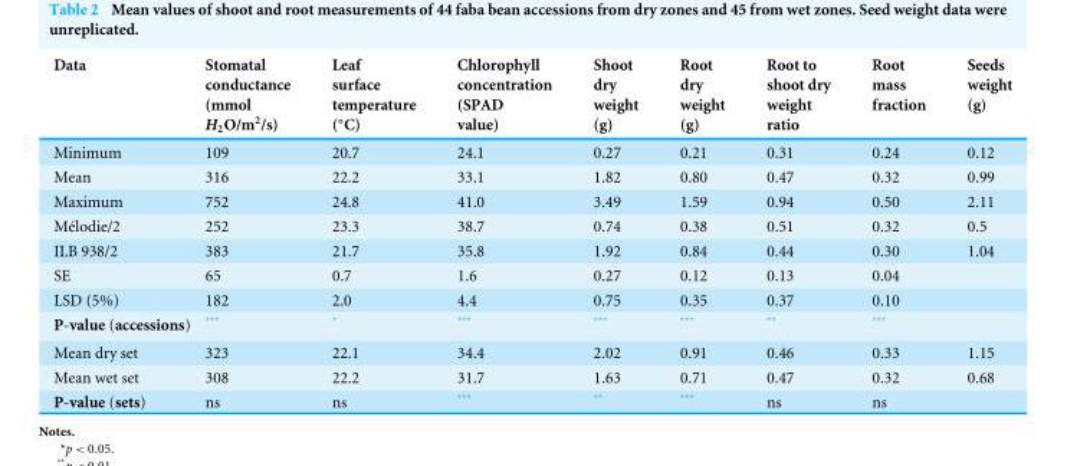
<table><thead><tr><td>Data</td><td>Stomatal conductance (mmol H<sub>2</sub>O/m<sup>2</sup>/s)</td><td>Leaf surface temperature (◦C)</td><td>Chlorophyll concentration (SPAD value)</td><td>Shoot dry weight (g)</td><td>Root dry weight (g)</td><td>Root to shoot dry weight ratio</td><td>Root mass fraction</td><td>Seeds weight (g)</td></tr></thead><tbody><tr><td>Minimum</td><td>109</td><td>20.7</td><td>24.1</td><td>0.27</td><td>0.21</td><td>0.31</td><td>0.24</td><td>0.12</td></tr><tr><td>Mean</td><td>316</td><td>22.2</td><td>33.1</td><td>1.82</td><td>0.80</td><td>0.47</td><td>0.32</td><td>0.99</td></tr><tr><td>Maximum</td><td>752</td><td>24.8</td><td>41.0</td><td>3.49</td><td>1.59</td><td>0.94</td><td>0.50</td><td>2.11</td></tr><tr><td>Mélodie/2</td><td>252</td><td>23.3</td><td>38.7</td><td>0.74</td><td>0.38</td><td>0.51</td><td>0.32</td><td>0.5</td></tr><tr><td>ILB 938/2</td><td>383</td><td>21.7</td><td>35.8</td><td>1.92</td><td>0.84</td><td>0.44</td><td>0.30</td><td>1.04</td></tr><tr><td>SE</td><td>65</td><td>0.7</td><td>1.6</td><td>0.27</td><td>0.12</td><td>0.13</td><td>0.04</td><td></td></tr><tr><td>LSD (5%)</td><td>182</td><td>2.0</td><td>4.4</td><td>0.75</td><td>0.35</td><td>0.37</td><td>0.10</td><td></td></tr><tr><td>P-value (accessions)</td><td>***</td><td>*</td><td>***</td><td>***</td><td>***</td><td>**</td><td>***</td><td></td></tr><tr><td>Mean dry set</td><td>323</td><td>22.1</td><td>34.4</td><td>2.02</td><td>0.91</td><td>0.46</td><td>0.33</td><td>1.15</td></tr><tr><td>Mean wet set</td><td>308</td><td>22.2</td><td>31.7</td><td>1.63</td><td>0.71</td><td>0.47</td><td>0.32</td><td>0.68</td></tr><tr><td>P-value (sets)</td><td>ns</td><td>ns</td><td>***</td><td>**</td><td>***</td><td>ns</td><td>ns</td><td></td></tr></tbody></table>